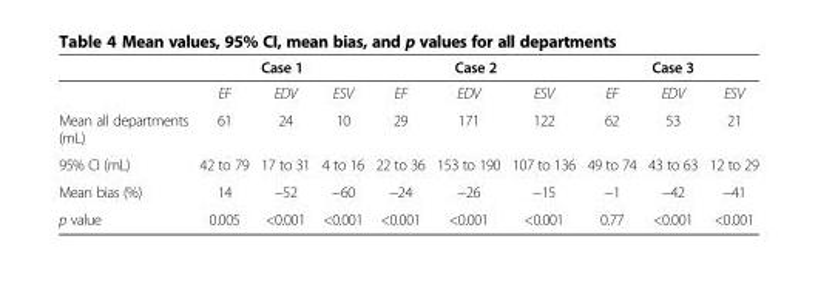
<table><thead><tr><td rowspan="2"></td><td colspan="3">Case 1</td><td colspan="3">Case 2</td><td colspan="3">Case 3</td></tr><tr><td>EF</td><td>EDV</td><td>ESV</td><td>EF</td><td>EDV</td><td>ESV</td><td>EF</td><td>EDV</td><td>ESV</td></tr></thead><tbody><tr><td>Mean all departments (mL)</td><td>61</td><td>24</td><td>10</td><td>29</td><td>171</td><td>122</td><td>62</td><td>53</td><td>21</td></tr><tr><td>95% CI (mL)</td><td>42 to 79</td><td>17 to 31</td><td>4 to 16</td><td>22 to 36</td><td>153 to 190</td><td>107 to 136</td><td>49 to 74</td><td>43 to 63</td><td>12 to 29</td></tr><tr><td>Mean bias (%)</td><td>14</td><td>−52</td><td>−60</td><td>−24</td><td>−26</td><td>−15</td><td>−1</td><td>−42</td><td>−41</td></tr><tr><td>p value</td><td>0.005</td><td>&lt;0.001</td><td>&lt;0.001</td><td>&lt;0.001</td><td>&lt;0.001</td><td>&lt;0.001</td><td>0.77</td><td>&lt;0.001</td><td>&lt;0.001</td></tr></tbody></table>